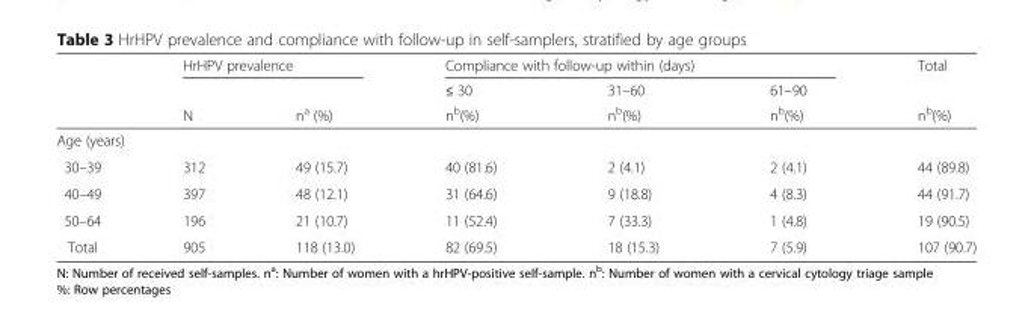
<table><thead><tr><td rowspan="3"></td><td colspan="2">HrHPV prevalence</td><td colspan="3">Compliance with follow-up within (days)</td><td rowspan="3">Total nb(%)</td></tr><tr><td rowspan="2">N</td><td rowspan="2">n<sup>a</sup> (%)</td><td rowspan="2">≤ 30 n<sup>b</sup>(%)</td><td rowspan="2">31–60 n<sup>b</sup>(%)</td><td rowspan="2">61–90 n<sup>b</sup>(%)</td></tr><tr></tr></thead><tbody><tr><td colspan="7">Age (years)</td></tr><tr><td>30–39</td><td>312</td><td>49 (15.7)</td><td>40 (81.6)</td><td>2 (4.1)</td><td>2 (4.1)</td><td>44 (89.8)</td></tr><tr><td>40–49</td><td>397</td><td>48 (12.1)</td><td>31 (64.6)</td><td>9 (18.8)</td><td>4 (8.3)</td><td>44 (91.7)</td></tr><tr><td>50–64</td><td>196</td><td>21 (10.7)</td><td>11 (52.4)</td><td>7 (33.3)</td><td>1 (4.8)</td><td>19 (90.5)</td></tr><tr><td>Total</td><td>905</td><td>118 (13.0)</td><td>82 (69.5)</td><td>18 (15.3)</td><td>7 (5.9)</td><td>107 (90.7)</td></tr></tbody></table>